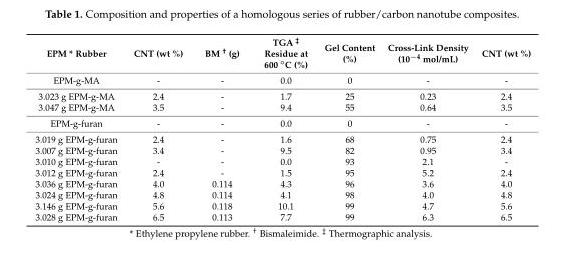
<table><thead><tr><td>EPM * Rubber</td><td>CNT (wt %)</td><td>BM <sup>†</sup> (g)</td><td>TGA ‡ Residue at 600 ◦C (%)</td><td>Gel Content (%)</td><td>Cross-Link Density (10<sup>−4</sup> mol/mL)</td><td>CNT (wt %)</td></tr></thead><tbody><tr><td>EPM-g-MA</td><td>-</td><td>-</td><td>0.0</td><td>0</td><td>-</td><td>-</td></tr><tr><td>3.023 g EPM-g-MA</td><td>2.4</td><td>-</td><td>1.7</td><td>25</td><td>0.23</td><td>2.4</td></tr><tr><td>3.047 g EPM-g-MA</td><td>3.5</td><td>-</td><td>9.4</td><td>55</td><td>0.64</td><td>3.5</td></tr><tr><td>EPM-g-furan</td><td>-</td><td>-</td><td>0.0</td><td>0</td><td>-</td><td>-</td></tr><tr><td>3.019 g EPM-g-furan</td><td>2.4</td><td>-</td><td>1.6</td><td>68</td><td>0.75</td><td>2.4</td></tr><tr><td>3.007 g EPM-g-furan</td><td>3.4</td><td>-</td><td>9.5</td><td>82</td><td>0.95</td><td>3.4</td></tr><tr><td>3.010 g EPM-g-furan</td><td>-</td><td>-</td><td>0.0</td><td>93</td><td>2.1</td><td>-</td></tr><tr><td>3.012 g EPM-g-furan</td><td>2.4</td><td>-</td><td>1.5</td><td>95</td><td>5.2</td><td>2.4</td></tr><tr><td>3.036 g EPM-g-furan</td><td>4.0</td><td>0.114</td><td>4.3</td><td>96</td><td>3.6</td><td>4.0</td></tr><tr><td>3.024 g EPM-g-furan</td><td>4.8</td><td>0.114</td><td>4.1</td><td>98</td><td>4.0</td><td>4.8</td></tr><tr><td>3.146 g EPM-g-furan</td><td>5.6</td><td>0.118</td><td>10.1</td><td>99</td><td>4.7</td><td>5.6</td></tr><tr><td>3.028 g EPM-g-furan</td><td>6.5</td><td>0.113</td><td>7.7</td><td>99</td><td>6.3</td><td>6.5</td></tr></tbody></table>